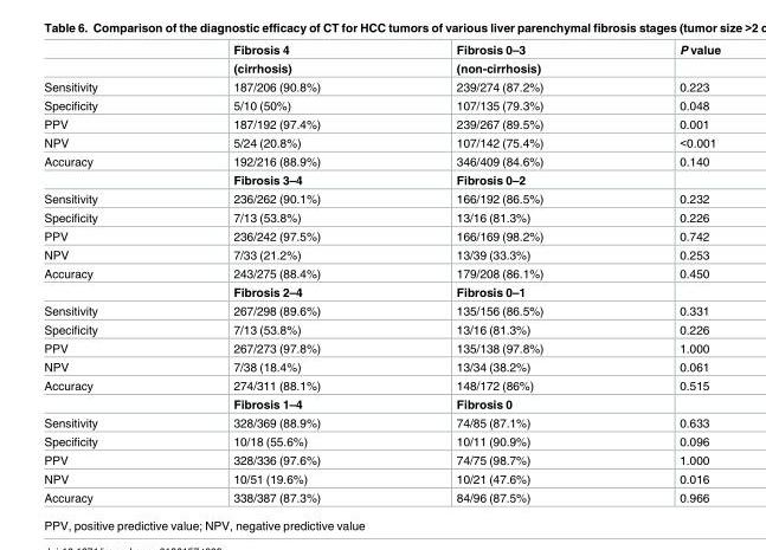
<table><thead><tr><td></td><td>Fibrosis 4</td><td>Fibrosis 0–3</td><td>P value</td></tr></thead><tbody><tr><td></td><td>(cirrhosis)</td><td>(non-cirrhosis)</td><td></td></tr><tr><td>Sensitivity</td><td>187/206 (90.8%)</td><td>239/274 (87.2%)</td><td>0.223</td></tr><tr><td>Specificity</td><td>5/10 (50%)</td><td>107/135 (79.3%)</td><td>0.048</td></tr><tr><td>PPV</td><td>187/192 (97.4%)</td><td>239/267 (89.5%)</td><td>0.001</td></tr><tr><td>NPV</td><td>5/24 (20.8%)</td><td>107/142 (75.4%)</td><td>&lt;0.001</td></tr><tr><td rowspan="2">Accuracy</td><td>192/216 (88.9%)</td><td>346/409 (84.6%)</td><td>0.140</td></tr><tr><td>Fibrosis 3–4</td><td>Fibrosis 0–2</td><td></td></tr><tr><td>Sensitivity</td><td>236/262 (90.1%)</td><td>166/192 (86.5%)</td><td>0.232</td></tr><tr><td>Specificity</td><td>7/13 (53.8%)</td><td>13/16 (81.3%)</td><td>0.226</td></tr><tr><td>PPV</td><td>236/242 (97.5%)</td><td>166/169 (98.2%)</td><td>0.742</td></tr><tr><td>NPV</td><td>7/33 (21.2%)</td><td>13/39 (33.3%)</td><td>0.253</td></tr><tr><td rowspan="2">Accuracy</td><td>243/275 (88.4%)</td><td>179/208 (86.1%)</td><td>0.450</td></tr><tr><td>Fibrosis 2–4</td><td>Fibrosis 0–1</td><td></td></tr><tr><td>Sensitivity</td><td>267/298 (89.6%)</td><td>135/156 (86.5%)</td><td>0.331</td></tr><tr><td>Specificity</td><td>7/13 (53.8%)</td><td>13/16 (81.3%)</td><td>0.226</td></tr><tr><td>PPV</td><td>267/273 (97.8%)</td><td>135/138 (97.8%)</td><td>1.000</td></tr><tr><td>NPV</td><td>7/38 (18.4%)</td><td>13/34 (38.2%)</td><td>0.061</td></tr><tr><td rowspan="2">Accuracy</td><td>274/311 (88.1%)</td><td>148/172 (86%)</td><td>0.515</td></tr><tr><td>Fibrosis 1–4</td><td>Fibrosis 0</td><td></td></tr><tr><td>Sensitivity</td><td>328/369 (88.9%)</td><td>74/85 (87.1%)</td><td>0.633</td></tr><tr><td>Specificity</td><td>10/18 (55.6%)</td><td>10/11 (90.9%)</td><td>0.096</td></tr><tr><td>PPV</td><td>328/336 (97.6%)</td><td>74/75 (98.7%)</td><td>1.000</td></tr><tr><td>NPV</td><td>10/51 (19.6%)</td><td>10/21 (47.6%)</td><td>0.016</td></tr><tr><td>Accuracy</td><td>338/387 (87.3%)</td><td>84/96 (87.5%)</td><td>0.966</td></tr></tbody></table>